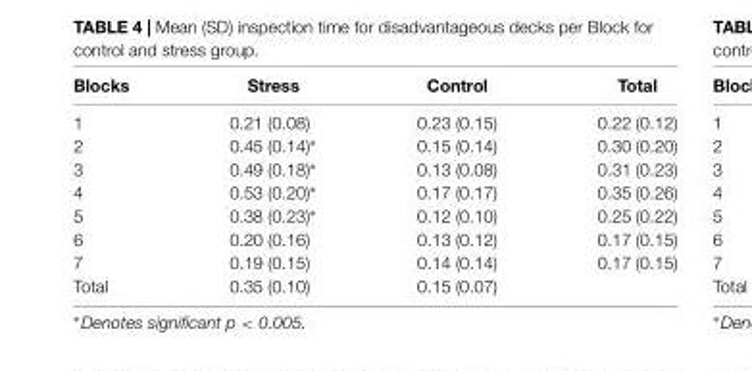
<table><thead><tr><td>Blocks</td><td>Stress</td><td>Control</td><td>Total</td></tr></thead><tbody><tr><td>1</td><td>0.21 (0.08)</td><td>0.23 (0.15)</td><td>0.22 (0.12)</td></tr><tr><td>2</td><td>0.45 (0.14)∗</td><td>0.15 (0.14)</td><td>0.30 (0.20)</td></tr><tr><td>3</td><td>0.49 (0.18)∗</td><td>0.13 (0.08)</td><td>0.31 (0.23)</td></tr><tr><td>4</td><td>0.53 (0.20)∗</td><td>0.17 (0.17)</td><td>0.35 (0.26)</td></tr><tr><td>5</td><td>0.38 (0.23)∗</td><td>0.12 (0.10)</td><td>0.25 (0.22)</td></tr><tr><td>6</td><td>0.20 (0.16)</td><td>0.13 (0.12)</td><td>0.17 (0.15)</td></tr><tr><td>7</td><td>0.19 (0.15)</td><td>0.14 (0.14)</td><td>0.17 (0.15)</td></tr><tr><td>Total</td><td>0.35 (0.10)</td><td>0.15 (0.07)</td><td></td></tr></tbody></table>